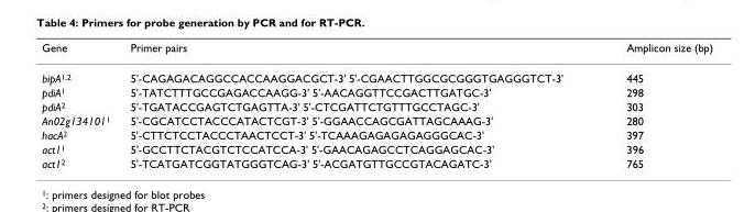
<table><thead><tr><td>Gene</td><td>Primer pairs</td><td>Amplicon size (bp)</td></tr></thead><tbody><tr><td>bipA1,2</td><td>5&#x27;-CAGAGACAGGCCACCAAGGACGCT-3&#x27; 5&#x27;-CGAACTTGGCGCGGGTGAGGGTCT-3&#x27;</td><td>445</td></tr><tr><td>pdiA1</td><td>5&#x27;-TATCTTTGCCGAGACCAAGG-3&#x27; 5&#x27;-AACAGGTTCCGACTTGATGC-3&#x27;</td><td>298</td></tr><tr><td>pdiA2</td><td>5&#x27;-TGATACCGAGTCTGAGTTA-3&#x27; 5&#x27;-CTCGATTCTGTTTGCCTAGC-3&#x27;</td><td>303</td></tr><tr><td>An02g1341011</td><td>5&#x27;-CGCATCCTACCCATACTCGT-3&#x27; 5&#x27;-GGAACCAGCGATTAGCAAAG-3&#x27;</td><td>280</td></tr><tr><td>hacA2</td><td>5&#x27;-CTTCTCCTACCCTAACTCCT-3&#x27; 5&#x27;-TCAAAGAGAGAGAGGGCAC-3&#x27;</td><td>397</td></tr><tr><td>act11</td><td>5&#x27;-GCCTTCTACGTCTCCATCCA-3&#x27; 5&#x27;-GAACAGAGCCTCAGGAGCAC-3&#x27;</td><td>396</td></tr><tr><td>act12</td><td>5&#x27;-TCATGATCGGTATGGGTCAG-3&#x27; 5&#x27;-ACGATGTTGCCGTACAGATC-3&#x27;</td><td>765</td></tr></tbody></table>